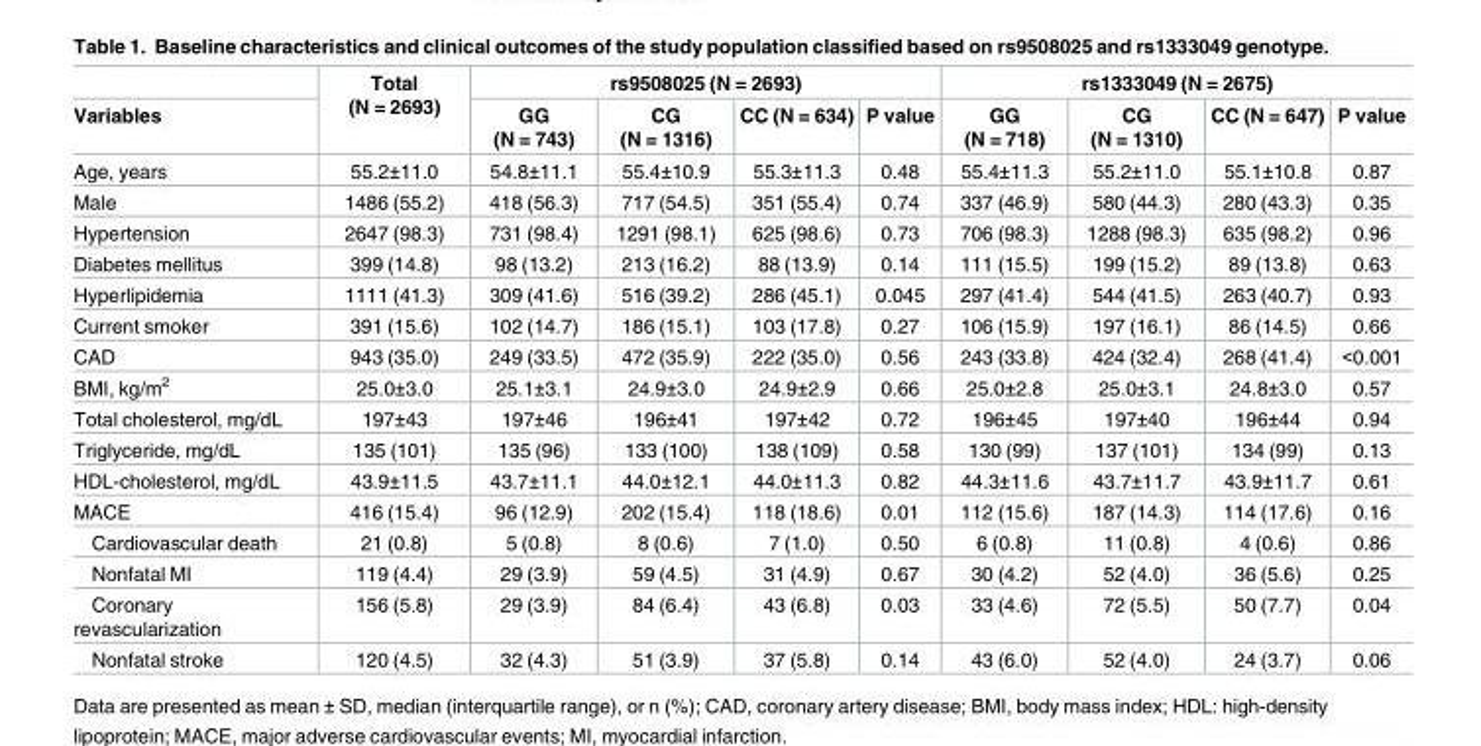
<table><thead><tr><td rowspan="2">Variables</td><td rowspan="2">Total (N = 2693)</td><td colspan="4">rs9508025 (N = 2693)</td><td colspan="4">rs1333049 (N = 2675)</td></tr><tr><td>GG (N = 743)</td><td>CG (N = 1316)</td><td>CC (N = 634)</td><td>P value</td><td>GG (N = 718)</td><td>CG (N = 1310)</td><td>CC (N = 647)</td><td>P value</td></tr></thead><tbody><tr><td>Age, years</td><td>55.2±11.0</td><td>54.8±11.1</td><td>55.4±10.9</td><td>55.3±11.3</td><td>0.48</td><td>55.4±11.3</td><td>55.2±11.0</td><td>55.1±10.8</td><td>0.87</td></tr><tr><td>Male</td><td>1486 (55.2)</td><td>418 (56.3)</td><td>717 (54.5)</td><td>351 (55.4)</td><td>0.74</td><td>337 (46.9)</td><td>580 (44.3)</td><td>280 (43.3)</td><td>0.35</td></tr><tr><td>Hypertension</td><td>2647 (98.3)</td><td>731 (98.4)</td><td>1291 (98.1)</td><td>625 (98.6)</td><td>0.73</td><td>706 (98.3)</td><td>1288 (98.3)</td><td>635 (98.2)</td><td>0.96</td></tr><tr><td>Diabetes mellitus</td><td>399 (14.8)</td><td>98 (13.2)</td><td>213 (16.2)</td><td>88 (13.9)</td><td>0.14</td><td>111 (15.5)</td><td>199 (15.2)</td><td>89 (13.8)</td><td>0.63</td></tr><tr><td>Hyperlipidemia</td><td>1111 (41.3)</td><td>309 (41.6)</td><td>516 (39.2)</td><td>286 (45.1)</td><td>0.045</td><td>297 (41.4)</td><td>544 (41.5)</td><td>263 (40.7)</td><td>0.93</td></tr><tr><td>Current smoker</td><td>391 (15.6)</td><td>102 (14.7)</td><td>186 (15.1)</td><td>103 (17.8)</td><td>0.27</td><td>106 (15.9)</td><td>197 (16.1)</td><td>86 (14.5)</td><td>0.66</td></tr><tr><td>CAD</td><td>943 (35.0)</td><td>249 (33.5)</td><td>472 (35.9)</td><td>222 (35.0)</td><td>0.56</td><td>243 (33.8)</td><td>424 (32.4)</td><td>268 (41.4)</td><td>&lt;0.001</td></tr><tr><td>BMI, kg/m<sup>2</sup></td><td>25.0±3.0</td><td>25.1±3.1</td><td>24.9±3.0</td><td>24.9±2.9</td><td>0.66</td><td>25.0±2.8</td><td>25.0±3.1</td><td>24.8±3.0</td><td>0.57</td></tr><tr><td>Total cholesterol, mg/dL</td><td>197±43</td><td>197±46</td><td>196±41</td><td>197±42</td><td>0.72</td><td>196±45</td><td>197±40</td><td>196±44</td><td>0.94</td></tr><tr><td>Triglyceride, mg/dL</td><td>135 (101)</td><td>135 (96)</td><td>133 (100)</td><td>138 (109)</td><td>0.58</td><td>130 (99)</td><td>137 (101)</td><td>134 (99)</td><td>0.13</td></tr><tr><td>HDL-cholesterol, mg/dL</td><td>43.9±11.5</td><td>43.7±11.1</td><td>44.0±12.1</td><td>44.0±11.3</td><td>0.82</td><td>44.3±11.6</td><td>43.7±11.7</td><td>43.9±11.7</td><td>0.61</td></tr><tr><td>MACE</td><td>416 (15.4)</td><td>96 (12.9)</td><td>202 (15.4)</td><td>118 (18.6)</td><td>0.01</td><td>112 (15.6)</td><td>187 (14.3)</td><td>114 (17.6)</td><td>0.16</td></tr><tr><td>Cardiovascular death</td><td>21 (0.8)</td><td>5 (0.8)</td><td>8 (0.6)</td><td>7 (1.0)</td><td>0.50</td><td>6 (0.8)</td><td>11 (0.8)</td><td>4 (0.6)</td><td>0.86</td></tr><tr><td>Nonfatal MI</td><td>119 (4.4)</td><td>29 (3.9)</td><td>59 (4.5)</td><td>31 (4.9)</td><td>0.67</td><td>30 (4.2)</td><td>52 (4.0)</td><td>36 (5.6)</td><td>0.25</td></tr><tr><td>Coronary revascularization</td><td>156 (5.8)</td><td>29 (3.9)</td><td>84 (6.4)</td><td>43 (6.8)</td><td>0.03</td><td>33 (4.6)</td><td>72 (5.5)</td><td>50 (7.7)</td><td>0.04</td></tr><tr><td>Nonfatal stroke</td><td>120 (4.5)</td><td>32 (4.3)</td><td>51 (3.9)</td><td>37 (5.8)</td><td>0.14</td><td>43 (6.0)</td><td>52 (4.0)</td><td>24 (3.7)</td><td>0.06</td></tr></tbody></table>